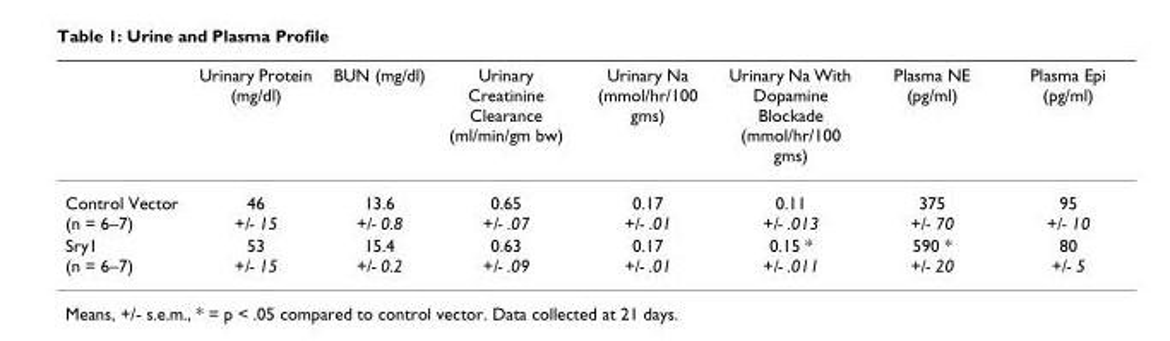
<table><thead><tr><td></td><td>Urinary Protein (mg/dl)</td><td>BUN (mg/dl)</td><td>Urinary Creatinine Clearance (ml/min/gm bw)</td><td>Urinary Na (mmol/hr/100 gms)</td><td>Urinary Na With Dopamine Blockade (mmol/hr/100 gms)</td><td>Plasma NE (pg/ml)</td><td>Plasma Epi (pg/ml)</td></tr></thead><tbody><tr><td>Control Vector (n = 6–7)</td><td>46 +/- 15</td><td>13.6 +/- 0.8</td><td>0.65 +/- .07</td><td>0.17 +/- .01</td><td>0.11 +/- .013</td><td>375 +/- 70</td><td>95 +/- 10</td></tr><tr><td>Sry1 (n = 6–7)</td><td>53 +/- 15</td><td>15.4 +/- 0.2</td><td>0.63 +/- .09</td><td>0.17 +/- .01</td><td>0.15 * +/- .011</td><td>590 * +/- 20</td><td>80 +/- 5</td></tr></tbody></table>